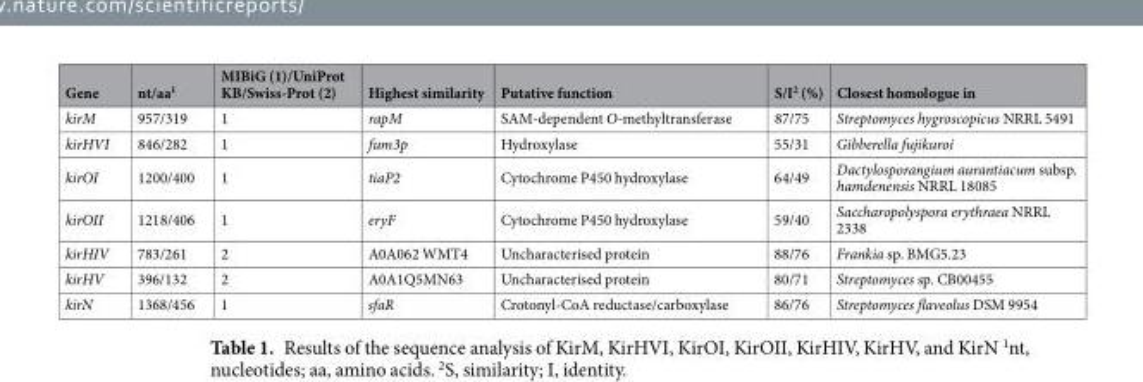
<table><thead><tr><td>Gene</td><td>nt/aa<sup>1</sup></td><td>MIBiG (1)/UniProt KB/Swiss-Prot (2)</td><td>Highest similarity</td><td>Putative function</td><td>S/I<sup>2</sup> (%)</td><td>Closest homologue in</td></tr></thead><tbody><tr><td>kirM</td><td>957/319</td><td>1</td><td>rapM</td><td>SAM-dependent O-methyltransferase</td><td>87/75</td><td>Streptomyces hygroscopicus NRRL 5491</td></tr><tr><td>kirHVI</td><td>846/282</td><td>1</td><td>fum3p</td><td>Hydroxylase</td><td>55/31</td><td>Gibberella fujikuroi</td></tr><tr><td>kirOI</td><td>1200/400</td><td>1</td><td>tiaP2</td><td>Cytochrome P450 hydroxylase</td><td>64/49</td><td>Dactylosporangium aurantiacum subsp. hamdenensis NRRL 18085</td></tr><tr><td>kirOII</td><td>1218/406</td><td>1</td><td>eryF</td><td>Cytochrome P450 hydroxylase</td><td>59/40</td><td>Saccharopolyspora erythraea NRRL 2338</td></tr><tr><td>kirHIV</td><td>783/261</td><td>2</td><td>A0A062 WMT4</td><td>Uncharacterised protein</td><td>88/76</td><td>Frankia sp. BMG5.23</td></tr><tr><td>kirHV</td><td>396/132</td><td>2</td><td>A0A1Q5MN63</td><td>Uncharacterised protein</td><td>80/71</td><td>Streptomyces sp. CB00455</td></tr><tr><td>kirN</td><td>1368/456</td><td>1</td><td>sfaR</td><td>Crotonyl-CoA reductase/carboxylase</td><td>86/76</td><td>Streptomyces flaveolus DSM 9954</td></tr></tbody></table>